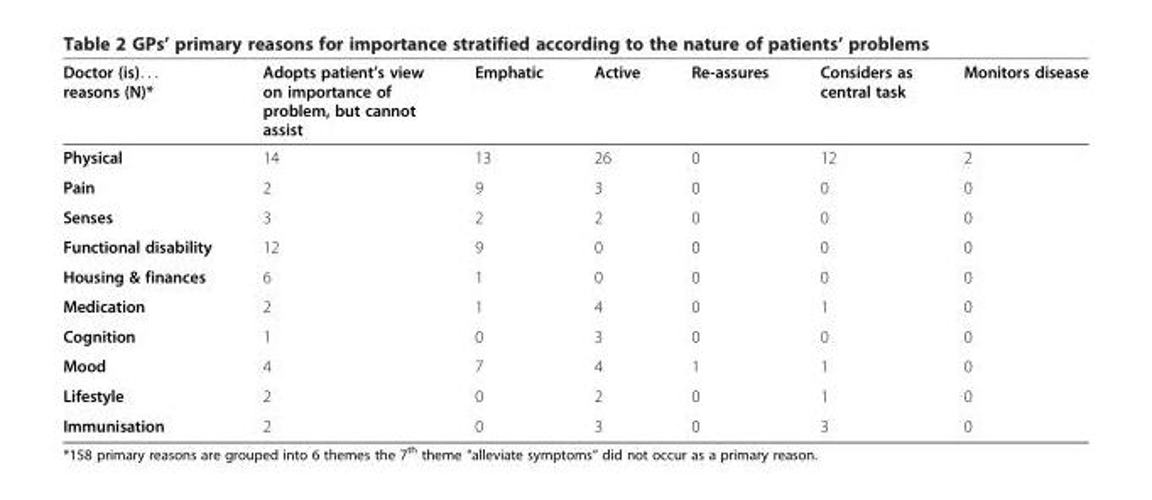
<table><thead><tr><td>Doctor (is). . . reasons (N)*</td><td>Adopts patient’s view on importance of problem, but cannot assist</td><td>Emphatic</td><td>Active</td><td>Re-assures</td><td>Considers as central task</td><td>Monitors disease</td></tr></thead><tbody><tr><td>Physical</td><td>14</td><td>13</td><td>26</td><td>0</td><td>12</td><td>2</td></tr><tr><td>Pain</td><td>2</td><td>9</td><td>3</td><td>0</td><td>0</td><td>0</td></tr><tr><td>Senses</td><td>3</td><td>2</td><td>2</td><td>0</td><td>0</td><td>0</td></tr><tr><td>Functional disability</td><td>12</td><td>9</td><td>0</td><td>0</td><td>0</td><td>0</td></tr><tr><td>Housing &amp; finances</td><td>6</td><td>1</td><td>0</td><td>0</td><td>0</td><td>0</td></tr><tr><td>Medication</td><td>2</td><td>1</td><td>4</td><td>0</td><td>1</td><td>0</td></tr><tr><td>Cognition</td><td>1</td><td>0</td><td>3</td><td>0</td><td>0</td><td>0</td></tr><tr><td>Mood</td><td>4</td><td>7</td><td>4</td><td>1</td><td>1</td><td>0</td></tr><tr><td>Lifestyle</td><td>2</td><td>0</td><td>2</td><td>0</td><td>1</td><td>0</td></tr><tr><td>Immunisation</td><td>2</td><td>0</td><td>3</td><td>0</td><td>3</td><td>0</td></tr></tbody></table>